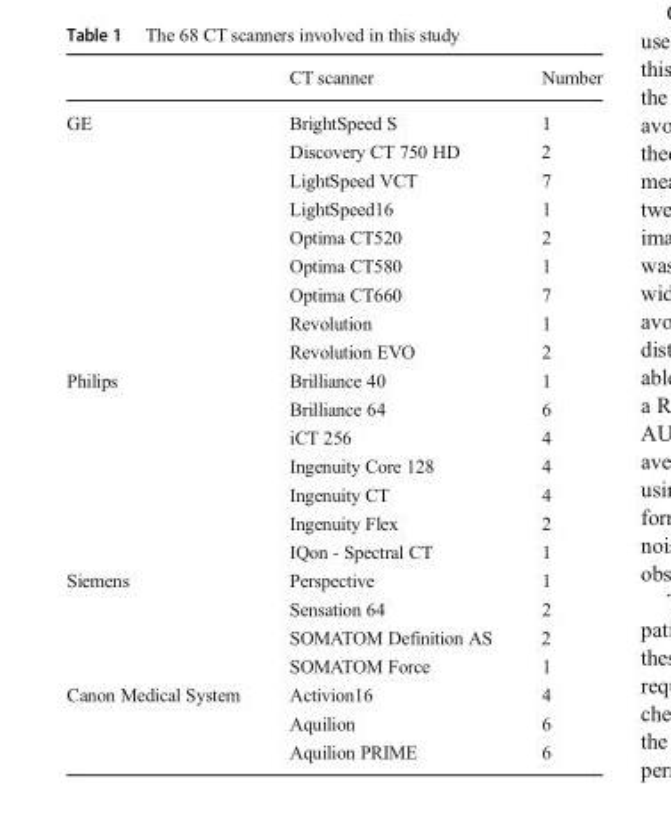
<table><thead><tr><td></td><td>CT scanner</td><td>Number</td></tr></thead><tbody><tr><td rowspan="9">GE</td><td>BrightSpeed S</td><td>1</td></tr><tr><td>Discovery CT 750 HD</td><td>2</td></tr><tr><td>LightSpeed VCT</td><td>7</td></tr><tr><td>LightSpeed16</td><td>1</td></tr><tr><td>Optima CT520</td><td>2</td></tr><tr><td>Optima CT580</td><td>1</td></tr><tr><td>Optima CT660</td><td>7</td></tr><tr><td>Revolution</td><td>1</td></tr><tr><td>Revolution EVO</td><td>2</td></tr><tr><td rowspan="7">Philips</td><td>Brilliance 40</td><td>1</td></tr><tr><td>Brilliance 64</td><td>6</td></tr><tr><td>iCT 256</td><td>4</td></tr><tr><td>Ingenuity Core 128</td><td>4</td></tr><tr><td>Ingenuity CT</td><td>4</td></tr><tr><td>Ingenuity Flex</td><td>2</td></tr><tr><td>IQon - Spectral CT</td><td>1</td></tr><tr><td rowspan="4">Siemens</td><td>Perspective</td><td>1</td></tr><tr><td>Sensation 64</td><td>2</td></tr><tr><td>SOMATOM Definition AS</td><td>2</td></tr><tr><td>SOMATOM Force</td><td>1</td></tr><tr><td rowspan="3">Canon Medical System</td><td>Activion16</td><td>4</td></tr><tr><td>Aquilion</td><td>6</td></tr><tr><td>Aquilion PRIME</td><td>6</td></tr></tbody></table>